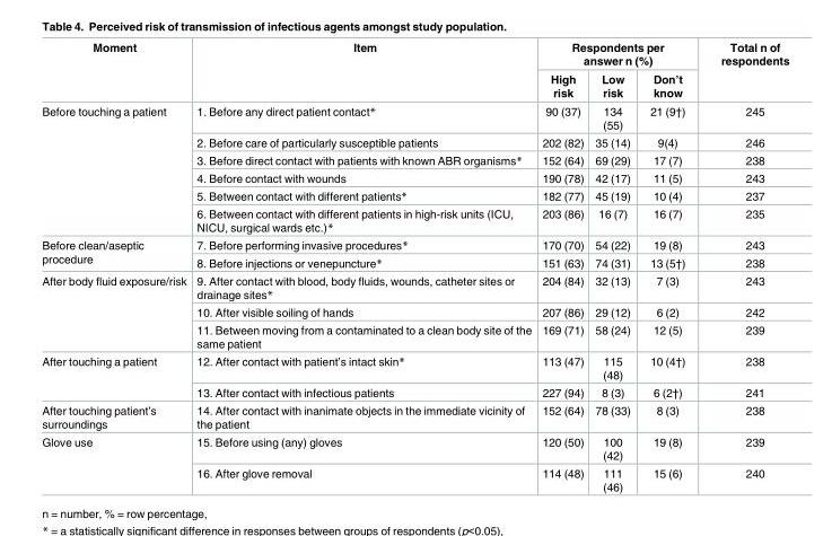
<table><thead><tr><td rowspan="2">Moment</td><td rowspan="2">Item</td><td colspan="3">Respondents per answer n (%)</td><td rowspan="2">Total n of respondents</td></tr><tr><td>High risk</td><td>Low risk</td><td>Don’t know</td></tr></thead><tbody><tr><td rowspan="6">Before touching a patient</td><td>1. Before any direct patient contact*</td><td>90 (37)</td><td>134 (55)</td><td>21 (9†)</td><td>245</td></tr><tr><td>2. Before care of particularly susceptible patients</td><td>202 (82)</td><td>35 (14)</td><td>9(4)</td><td>246</td></tr><tr><td>3. Before direct contact with patients with known ABR organisms*</td><td>152 (64)</td><td>69 (29)</td><td>17 (7)</td><td>238</td></tr><tr><td>4. Before contact with wounds</td><td>190 (78)</td><td>42 (17)</td><td>11 (5)</td><td>243</td></tr><tr><td>5. Between contact with different patients*</td><td>182 (77)</td><td>45 (19)</td><td>10 (4)</td><td>237</td></tr><tr><td>6. Between contact with different patients in high-risk units (ICU, NICU, surgical wards etc.)*</td><td>203 (86)</td><td>16 (7)</td><td>16 (7)</td><td>235</td></tr><tr><td rowspan="2">Before clean/aseptic procedure</td><td>7. Before performing invasive procedures*</td><td>170 (70)</td><td>54 (22)</td><td>19 (8)</td><td>243</td></tr><tr><td>8. Before injections or venepuncture*</td><td>151 (63)</td><td>74 (31)</td><td>13 (5†)</td><td>238</td></tr><tr><td rowspan="3">After body fluid exposure/risk</td><td>9. After contact with blood, body fluids, wounds, catheter sites or drainage sites*</td><td>204 (84)</td><td>32 (13)</td><td>7 (3)</td><td>243</td></tr><tr><td>10. After visible soiling of hands</td><td>207 (86)</td><td>29 (12)</td><td>6 (2)</td><td>242</td></tr><tr><td>11. Between moving from a contaminated to a clean body site of the same patient</td><td>169 (71)</td><td>58 (24)</td><td>12 (5)</td><td>239</td></tr><tr><td rowspan="2">After touching a patient</td><td>12. After contact with patient’s intact skin*</td><td>113 (47)</td><td>115 (48)</td><td>10 (4†)</td><td>238</td></tr><tr><td>13. After contact with infectious patients</td><td>227 (94)</td><td>8 (3)</td><td>6 (2†)</td><td>241</td></tr><tr><td>After touching patient’s surroundings</td><td>14. After contact with inanimate objects in the immediate vicinity of the patient</td><td>152 (64)</td><td>78 (33)</td><td>8 (3)</td><td>238</td></tr><tr><td rowspan="2">Glove use</td><td>15. Before using (any) gloves</td><td>120 (50)</td><td>100 (42)</td><td>19 (8)</td><td>239</td></tr><tr><td>16. After glove removal</td><td>114 (48)</td><td>111 (46)</td><td>15 (6)</td><td>240</td></tr></tbody></table>